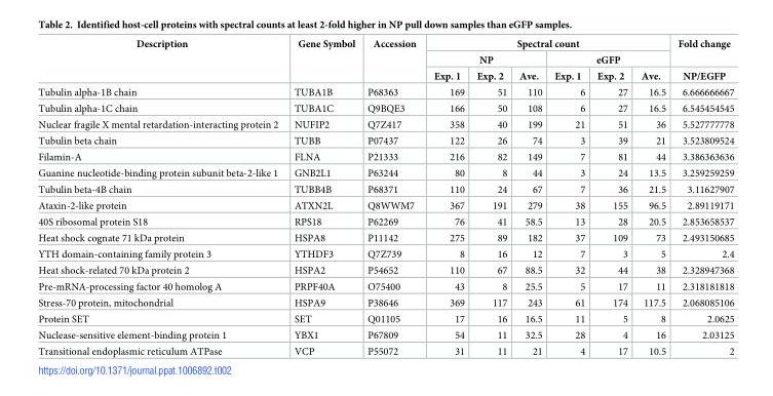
<table><thead><tr><td rowspan="3">Description</td><td rowspan="3">Gene Symbol</td><td rowspan="3">Accession</td><td colspan="6">Spectral count</td><td rowspan="3">Fold change NP/EGFP</td></tr><tr><td colspan="3">NP</td><td colspan="3">eGFP</td></tr><tr><td>Exp. 1</td><td>Exp. 2</td><td>Ave.</td><td>Exp. 1</td><td>Exp. 2</td><td>Ave.</td></tr></thead><tbody><tr><td>Tubulin alpha-1B chain</td><td>TUBA1B</td><td>P68363</td><td>169</td><td>51</td><td>110</td><td>6</td><td>27</td><td>16.5</td><td>6.666666667</td></tr><tr><td>Tubulin alpha-1C chain</td><td>TUBA1C</td><td>Q9BQE3</td><td>166</td><td>50</td><td>108</td><td>6</td><td>27</td><td>16.5</td><td>6.545454545</td></tr><tr><td>Nuclear fragile X mental retardation-interacting protein 2</td><td>NUFIP2</td><td>Q7Z417</td><td>358</td><td>40</td><td>199</td><td>21</td><td>51</td><td>36</td><td>5.527777778</td></tr><tr><td>Tubulin beta chain</td><td>TUBB</td><td>P07437</td><td>122</td><td>26</td><td>74</td><td>3</td><td>39</td><td>21</td><td>3.523809524</td></tr><tr><td>Filamin-A</td><td>FLNA</td><td>P21333</td><td>216</td><td>82</td><td>149</td><td>7</td><td>81</td><td>44</td><td>3.386363636</td></tr><tr><td>Guanine nucleotide-binding protein subunit beta-2-like 1</td><td>GNB2L1</td><td>P63244</td><td>80</td><td>8</td><td>44</td><td>3</td><td>24</td><td>13.5</td><td>3.259259259</td></tr><tr><td>Tubulin beta-4B chain</td><td>TUBB4B</td><td>P68371</td><td>110</td><td>24</td><td>67</td><td>7</td><td>36</td><td>21.5</td><td>3.11627907</td></tr><tr><td>Ataxin-2-like protein</td><td>ATXN2L</td><td>Q8WWM7</td><td>367</td><td>191</td><td>279</td><td>38</td><td>155</td><td>96.5</td><td>2.89119171</td></tr><tr><td>40S ribosomal protein S18</td><td>RPS18</td><td>P62269</td><td>76</td><td>41</td><td>58.5</td><td>13</td><td>28</td><td>20.5</td><td>2.853658537</td></tr><tr><td>Heat shock cognate 71 kDa protein</td><td>HSPA8</td><td>P11142</td><td>275</td><td>89</td><td>182</td><td>37</td><td>109</td><td>73</td><td>2.493150685</td></tr><tr><td>YTH domain-containing family protein 3</td><td>YTHDF3</td><td>Q7Z739</td><td>8</td><td>16</td><td>12</td><td>7</td><td>3</td><td>5</td><td>2.4</td></tr><tr><td>Heat shock-related 70 kDa protein 2</td><td>HSPA2</td><td>P54652</td><td>110</td><td>67</td><td>88.5</td><td>32</td><td>44</td><td>38</td><td>2.328947368</td></tr><tr><td>Pre-mRNA-processing factor 40 homolog A</td><td>PRPF40A</td><td>O75400</td><td>43</td><td>8</td><td>25.5</td><td>5</td><td>17</td><td>11</td><td>2.318181818</td></tr><tr><td>Stress-70 protein, mitochondrial</td><td>HSPA9</td><td>P38646</td><td>369</td><td>117</td><td>243</td><td>61</td><td>174</td><td>117.5</td><td>2.068085106</td></tr><tr><td>Protein SET</td><td>SET</td><td>Q01105</td><td>17</td><td>16</td><td>16.5</td><td>11</td><td>5</td><td>8</td><td>2.0625</td></tr><tr><td>Nuclease-sensitive element-binding protein 1</td><td>YBX1</td><td>P67809</td><td>54</td><td>11</td><td>32.5</td><td>28</td><td>4</td><td>16</td><td>2.03125</td></tr><tr><td>Transitional endoplasmic reticulum ATPase</td><td>VCP</td><td>P55072</td><td>31</td><td>11</td><td>21</td><td>4</td><td>17</td><td>10.5</td><td>2</td></tr></tbody></table>